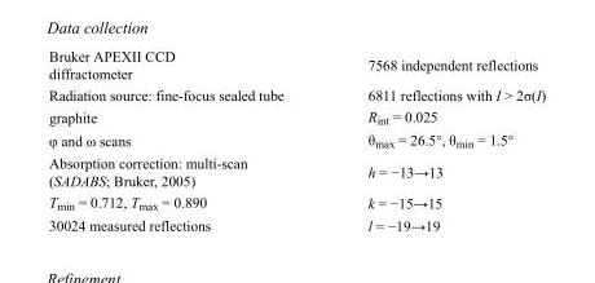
<table><tbody><tr><td>Bruker APEXII CCD diffractometer</td><td>7568 independent reflections</td></tr><tr><td>Radiation source: fine-focus sealed tube</td><td>6811 reflections with I &gt; 2σ(I)</td></tr><tr><td>graphite</td><td>R<sub>int</sub> = 0.025</td></tr><tr><td>φ and ω scans</td><td>θ<sub>max</sub> = 26.5°, θ<sub>min</sub> = 1.5°</td></tr><tr><td>Absorption correction: multi-scan (SADABS; Bruker, 2005)</td><td>h = −13→13</td></tr><tr><td>T<sub>min</sub> = 0.712, T<sub>max</sub> = 0.890</td><td>k = −15→15</td></tr><tr><td>30024 measured reflections</td><td>l = −19→19</td></tr></tbody></table>